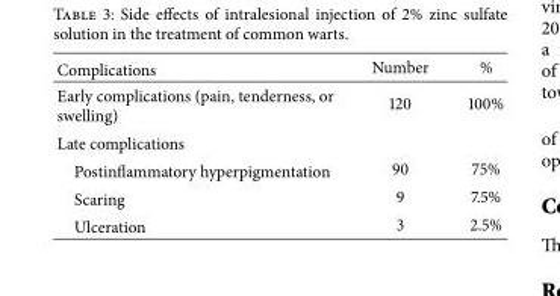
<table><thead><tr><td>Complications</td><td>Number</td><td>%</td></tr></thead><tbody><tr><td>Early complications (pain, tenderness, or swelling)</td><td>120</td><td>100%</td></tr><tr><td colspan="3">Late complications</td></tr><tr><td>Postinflammatory hyperpigmentation</td><td>90</td><td>75%</td></tr><tr><td>Scaring</td><td>9</td><td>7.5%</td></tr><tr><td>Ulceration</td><td>3</td><td>2.5%</td></tr></tbody></table>